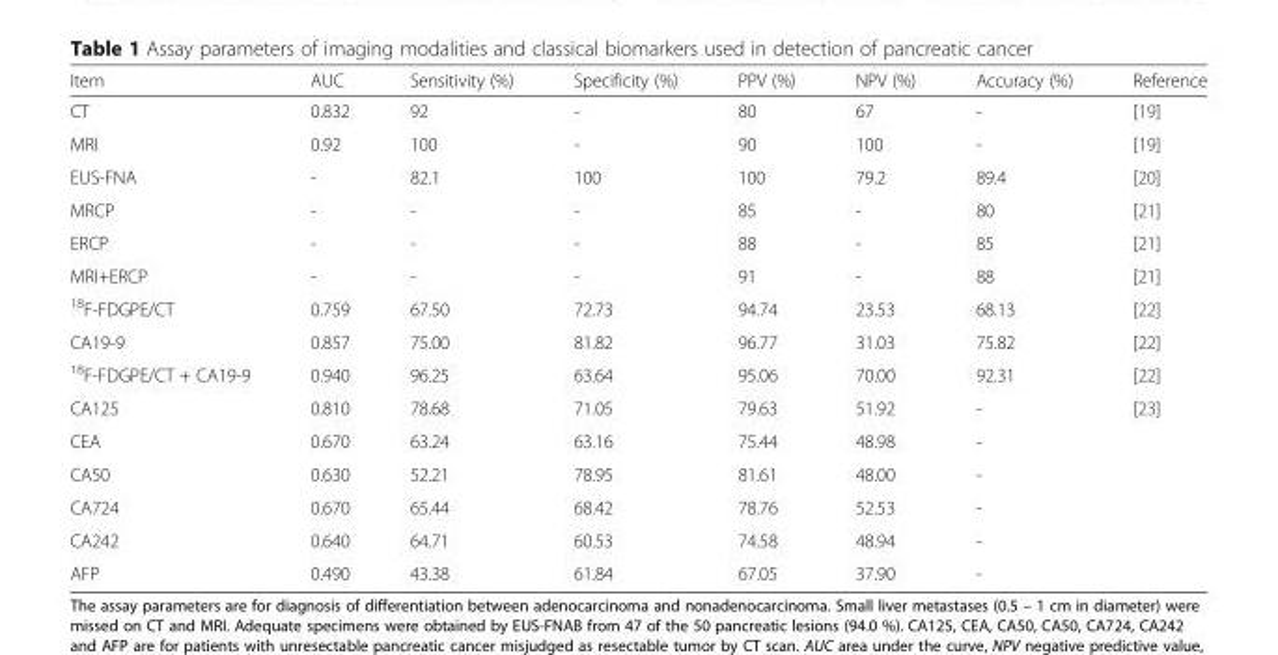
<table><thead><tr><td>Item</td><td>AUC</td><td>Sensitivity (%)</td><td>Specificity (%)</td><td>PPV (%)</td><td>NPV (%)</td><td>Accuracy (%)</td><td>Reference</td></tr></thead><tbody><tr><td>CT</td><td>0.832</td><td>92</td><td>-</td><td>80</td><td>67</td><td>-</td><td>[19]</td></tr><tr><td>MRI</td><td>0.92</td><td>100</td><td>-</td><td>90</td><td>100</td><td>-</td><td>[19]</td></tr><tr><td>EUS-FNA</td><td>-</td><td>82.1</td><td>100</td><td>100</td><td>79.2</td><td>89.4</td><td>[20]</td></tr><tr><td>MRCP</td><td>-</td><td>-</td><td>-</td><td>85</td><td>-</td><td>80</td><td>[21]</td></tr><tr><td>ERCP</td><td>-</td><td>-</td><td>-</td><td>88</td><td>-</td><td>85</td><td>[21]</td></tr><tr><td>MRI+ERCP</td><td>-</td><td>-</td><td>-</td><td>91</td><td>-</td><td>88</td><td>[21]</td></tr><tr><td><sup>18</sup>F-FDGPE/CT</td><td>0.759</td><td>67.50</td><td>72.73</td><td>94.74</td><td>23.53</td><td>68.13</td><td>[22]</td></tr><tr><td>CA19-9</td><td>0.857</td><td>75.00</td><td>81.82</td><td>96.77</td><td>31.03</td><td>75.82</td><td>[22]</td></tr><tr><td><sup>18</sup>F-FDGPE/CT + CA19-9</td><td>0.940</td><td>96.25</td><td>63.64</td><td>95.06</td><td>70.00</td><td>92.31</td><td>[22]</td></tr><tr><td>CA125</td><td>0.810</td><td>78.68</td><td>71.05</td><td>79.63</td><td>51.92</td><td>-</td><td rowspan="6">[23]</td></tr><tr><td>CEA</td><td>0.670</td><td>63.24</td><td>63.16</td><td>75.44</td><td>48.98</td><td>-</td></tr><tr><td>CA50</td><td>0.630</td><td>52.21</td><td>78.95</td><td>81.61</td><td>48.00</td><td>-</td></tr><tr><td>CA724</td><td>0.670</td><td>65.44</td><td>68.42</td><td>78.76</td><td>52.53</td><td>-</td></tr><tr><td>CA242</td><td>0.640</td><td>64.71</td><td>60.53</td><td>74.58</td><td>48.94</td><td>-</td></tr><tr><td>AFP</td><td>0.490</td><td>43.38</td><td>61.84</td><td>67.05</td><td>37.90</td><td>-</td></tr></tbody></table>